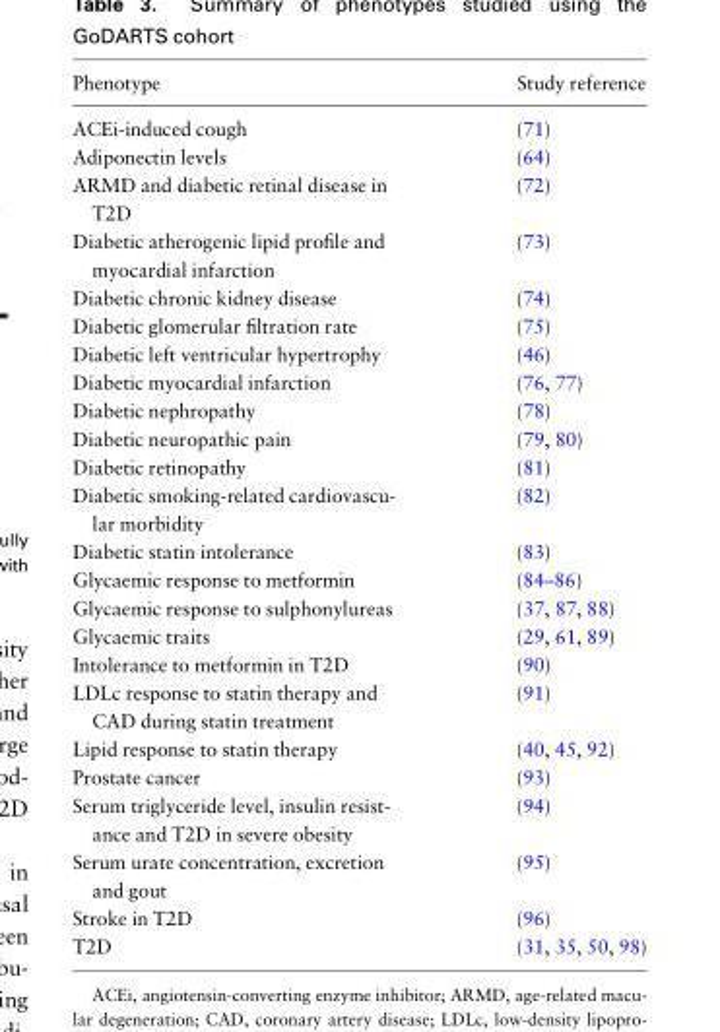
<table><thead><tr><td>Phenotype</td><td>Study reference</td></tr></thead><tbody><tr><td>ACEi-induced cough</td><td>(71)</td></tr><tr><td>Adiponectin levels</td><td>(64)</td></tr><tr><td>ARMD and diabetic retinal disease in T2D</td><td>(72)</td></tr><tr><td>Diabetic atherogenic lipid profile and myocardial infarction</td><td>(73)</td></tr><tr><td>Diabetic chronic kidney disease</td><td>(74)</td></tr><tr><td>Diabetic glomerular filtration rate</td><td>(75)</td></tr><tr><td>Diabetic left ventricular hypertrophy</td><td>(46)</td></tr><tr><td>Diabetic myocardial infarction</td><td>(76, 77)</td></tr><tr><td>Diabetic nephropathy</td><td>(78)</td></tr><tr><td>Diabetic neuropathic pain</td><td>(79, 80)</td></tr><tr><td>Diabetic retinopathy</td><td>(81)</td></tr><tr><td>Diabetic smoking-related cardiovascu- lar morbidity</td><td>(82)</td></tr><tr><td>Diabetic statin intolerance</td><td>(83)</td></tr><tr><td>Glycaemic response to metformin</td><td>(84–86)</td></tr><tr><td>Glycaemic response to sulphonylureas</td><td>(37, 87, 88)</td></tr><tr><td>Glycaemic traits</td><td>(29, 61, 89)</td></tr><tr><td>Intolerance to metformin in T2D</td><td>(90)</td></tr><tr><td>LDLc response to statin therapy and CAD during statin treatment</td><td>(91)</td></tr><tr><td>Lipid response to statin therapy</td><td>(40, 45, 92)</td></tr><tr><td>Prostate cancer</td><td>(93)</td></tr><tr><td>Serum triglyceride level, insulin resist- ance and T2D in severe obesity</td><td>(94)</td></tr><tr><td>Serum urate concentration, excretion and gout</td><td>(95)</td></tr><tr><td>Stroke in T2D</td><td>(96)</td></tr><tr><td>T2D</td><td>(31, 35, 50, 98)</td></tr></tbody></table>